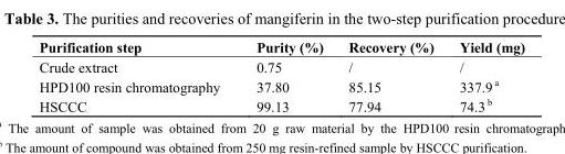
<table><thead><tr><td>Purification step</td><td>Purity (%)</td><td>Recovery (%)</td><td>Yield (mg)</td></tr></thead><tbody><tr><td>Crude extract</td><td>0.75</td><td>/</td><td>/</td></tr><tr><td>HPD100 resin chromatography</td><td>37.80</td><td>85.15</td><td>337.9 a</td></tr><tr><td>HSCCC</td><td>99.13</td><td>77.94</td><td>74.3 b</td></tr></tbody></table>